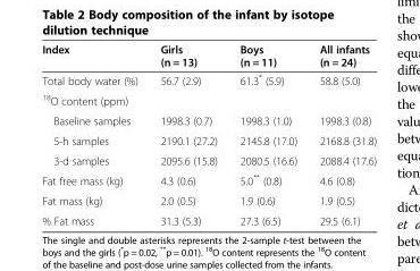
<table><thead><tr><td>Index</td><td>Girls (n = 13)</td><td>Boys (n = 11)</td><td>All infants (n = 24)</td></tr></thead><tbody><tr><td>Total body water (%)</td><td>56.7 (2.9)</td><td>61.3* (5.9)</td><td>58.8 (5.0)</td></tr><tr><td colspan="4"><sup>18</sup>O content (ppm)</td></tr><tr><td>Baseline samples</td><td>1998.3 (0.7)</td><td>1998.3 (1.0)</td><td>1998.3 (0.8)</td></tr><tr><td>5-h samples</td><td>2190.1 (27.2)</td><td>2145.8 (17.0)</td><td>2168.8 (31.8)</td></tr><tr><td>3-d samples</td><td>2095.6 (15.8)</td><td>2080.5 (16.6)</td><td>2088.4 (17.6)</td></tr><tr><td>Fat free mass (kg)</td><td>4.3 (0.6)</td><td>5.0** (0.8)</td><td>4.6 (0.8)</td></tr><tr><td>Fat mass (kg)</td><td>2.0 (0.5)</td><td>1.9 (0.6)</td><td>1.9 (0.5)</td></tr><tr><td>% Fat mass</td><td>31.3 (5.3)</td><td>27.3 (6.5)</td><td>29.5 (6.1)</td></tr></tbody></table>